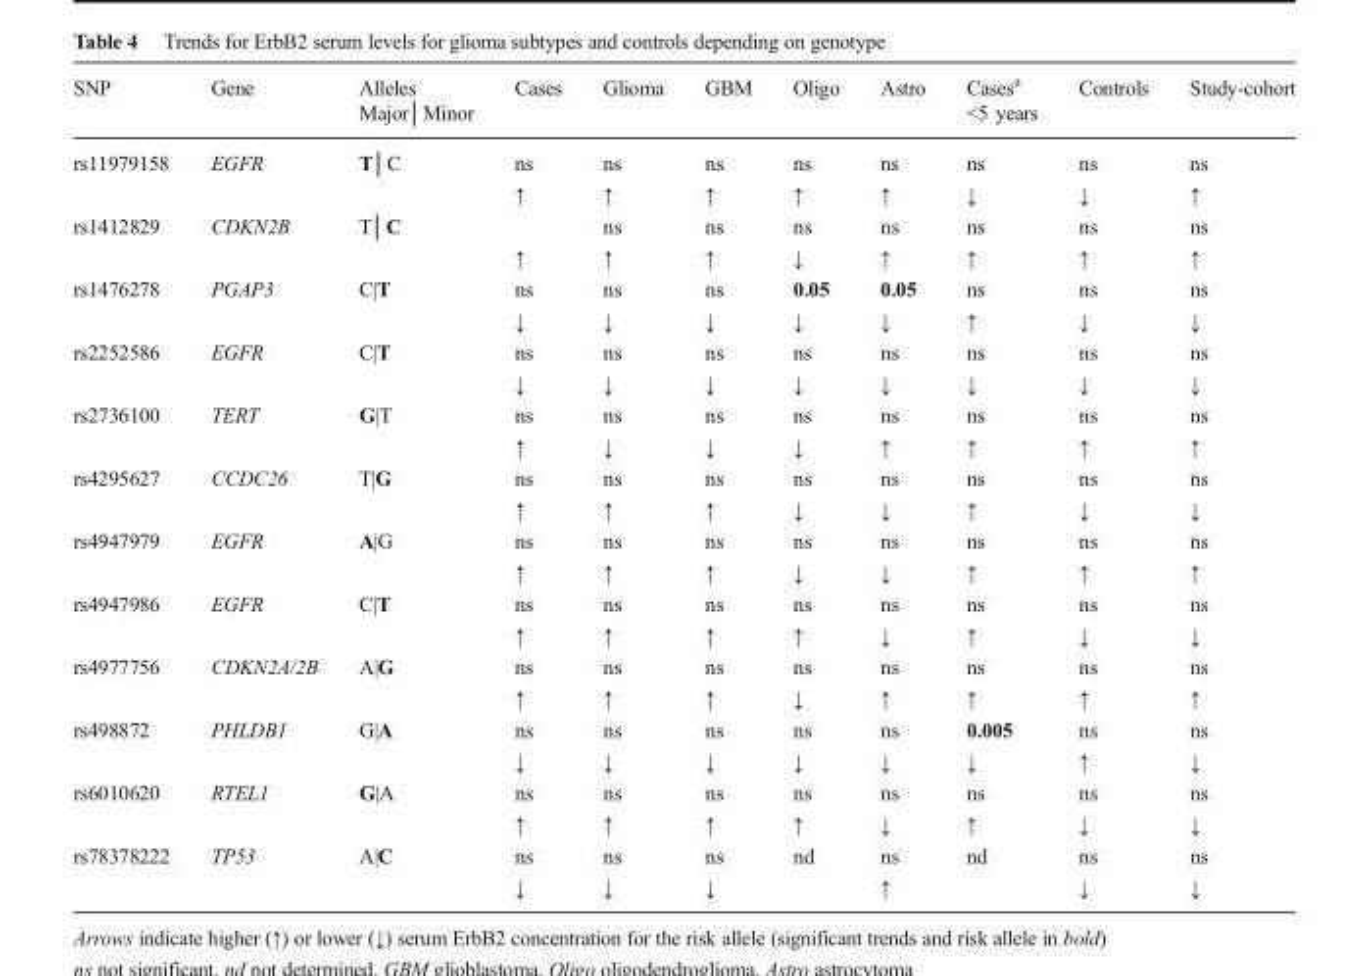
<table><thead><tr><td rowspan="2">SNP</td><td rowspan="2">Gene</td><td rowspan="2">Alleles Major│Minor</td><td rowspan="2">Cases</td><td rowspan="2">Glioma</td><td rowspan="2">GBM</td><td rowspan="2">Oligo</td><td rowspan="2">Astro</td><td rowspan="2">Cases<sup>a</sup> &lt;5 years</td><td rowspan="2">Controls</td><td rowspan="2">Study-cohort</td></tr><tr></tr></thead><tbody><tr><td rowspan="2">rs11979158</td><td rowspan="2">EGFR</td><td rowspan="2">T│C</td><td>ns</td><td>ns</td><td>ns</td><td>ns</td><td>ns</td><td>ns</td><td>ns</td><td>ns</td></tr><tr><td>↑</td><td>↑</td><td>↑</td><td>↑</td><td>↑</td><td>↓</td><td>↓</td><td>↑</td></tr><tr><td rowspan="2">rs1412829</td><td rowspan="2">CDKN2B</td><td rowspan="2">T│C</td><td></td><td>ns</td><td>ns</td><td>ns</td><td>ns</td><td>ns</td><td>ns</td><td>ns</td></tr><tr><td>↑</td><td>↑</td><td>↑</td><td>↓</td><td>↑</td><td>↑</td><td>↑</td><td>↑</td></tr><tr><td rowspan="2">rs1476278</td><td rowspan="2">PGAP3</td><td rowspan="2">C|T</td><td>ns</td><td>ns</td><td>ns</td><td>0.05</td><td>0.05</td><td>ns</td><td>ns</td><td>ns</td></tr><tr><td>↓</td><td>↓</td><td>↓</td><td>↓</td><td>↓</td><td>↑</td><td>↓</td><td>↓</td></tr><tr><td rowspan="2">rs2252586</td><td rowspan="2">EGFR</td><td rowspan="2">C|T</td><td>ns</td><td>ns</td><td>ns</td><td>ns</td><td>ns</td><td>ns</td><td>ns</td><td>ns</td></tr><tr><td>↓</td><td>↓</td><td>↓</td><td>↓</td><td>↓</td><td>↓</td><td>↓</td><td>↓</td></tr><tr><td rowspan="2">rs2736100</td><td rowspan="2">TERT</td><td rowspan="2">G|T</td><td>ns</td><td>ns</td><td>ns</td><td>ns</td><td>ns</td><td>ns</td><td>ns</td><td>ns</td></tr><tr><td>↑</td><td>↓</td><td>↓</td><td>↓</td><td>↑</td><td>↑</td><td>↑</td><td>↑</td></tr><tr><td rowspan="2">rs4295627</td><td rowspan="2">CCDC26</td><td rowspan="2">T|G</td><td>ns</td><td>ns</td><td>ns</td><td>ns</td><td>ns</td><td>ns</td><td>ns</td><td>ns</td></tr><tr><td>↑</td><td>↑</td><td>↑</td><td>↓</td><td>↓</td><td>↑</td><td>↓</td><td>↓</td></tr><tr><td rowspan="2">rs4947979</td><td rowspan="2">EGFR</td><td rowspan="2">A|G</td><td>ns</td><td>ns</td><td>ns</td><td>ns</td><td>ns</td><td>ns</td><td>ns</td><td>ns</td></tr><tr><td>↑</td><td>↑</td><td>↑</td><td>↓</td><td>↓</td><td>↑</td><td>↑</td><td>↑</td></tr><tr><td rowspan="2">rs4947986</td><td rowspan="2">EGFR</td><td rowspan="2">C|T</td><td>ns</td><td>ns</td><td>ns</td><td>ns</td><td>ns</td><td>ns</td><td>ns</td><td>ns</td></tr><tr><td>↑</td><td>↑</td><td>↑</td><td>↑</td><td>↓</td><td>↑</td><td>↓</td><td>↓</td></tr><tr><td rowspan="2">rs4977756</td><td rowspan="2">CDKN2A/2B</td><td rowspan="2">A|G</td><td>ns</td><td>ns</td><td>ns</td><td>ns</td><td>ns</td><td>ns</td><td>ns</td><td>ns</td></tr><tr><td>↑</td><td>↑</td><td>↑</td><td>↓</td><td>↑</td><td>↑</td><td>↑</td><td>↑</td></tr><tr><td rowspan="2">rs498872</td><td rowspan="2">PHLDB1</td><td rowspan="2">G|A</td><td>ns</td><td>ns</td><td>ns</td><td>ns</td><td>ns</td><td>0.005</td><td>ns</td><td>ns</td></tr><tr><td>↓</td><td>↓</td><td>↓</td><td>↓</td><td>↓</td><td>↓</td><td>↑</td><td>↓</td></tr><tr><td rowspan="2">rs6010620</td><td rowspan="2">RTEL1</td><td rowspan="2">G|A</td><td>ns</td><td>ns</td><td>ns</td><td>ns</td><td>ns</td><td>ns</td><td>ns</td><td>ns</td></tr><tr><td>↑</td><td>↑</td><td>↑</td><td>↑</td><td>↓</td><td>↑</td><td>↓</td><td>↓</td></tr><tr><td rowspan="2">rs78378222</td><td rowspan="2">TP53</td><td rowspan="2">A|C</td><td>ns</td><td>ns</td><td>ns</td><td rowspan="2">nd</td><td>ns</td><td rowspan="2">nd</td><td>ns</td><td>ns</td></tr><tr><td>↓</td><td>↓</td><td>↓</td><td>↑</td><td>↓</td><td>↓</td></tr></tbody></table>